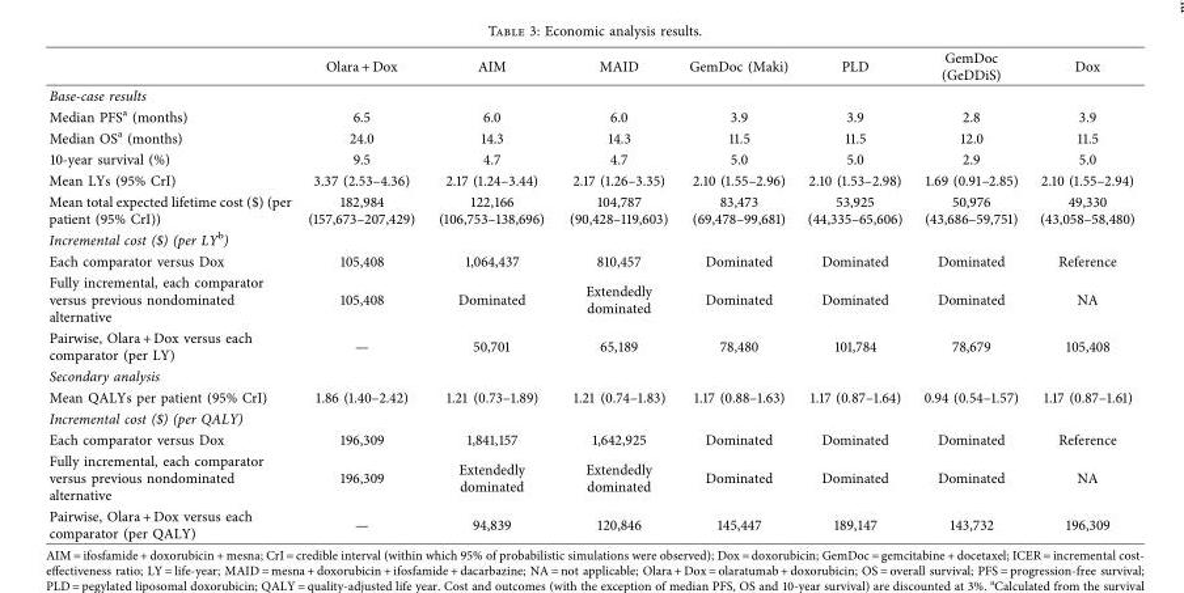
<table><thead><tr><td></td><td>Olara + Dox</td><td>AIM</td><td>MAID</td><td>GemDoc (Maki)</td><td>PLD</td><td>GemDoc (GeDDiS)</td><td>Dox</td></tr></thead><tbody><tr><td colspan="8">Base-case results</td></tr><tr><td>Median PFS<sup>a</sup> (months)</td><td>6.5</td><td>6.0</td><td>6.0</td><td>3.9</td><td>3.9</td><td>2.8</td><td>3.9</td></tr><tr><td>Median OS<sup>a</sup> (months)</td><td>24.0</td><td>14.3</td><td>14.3</td><td>11.5</td><td>11.5</td><td>12.0</td><td>11.5</td></tr><tr><td>10-year survival (%)</td><td>9.5</td><td>4.7</td><td>4.7</td><td>5.0</td><td>5.0</td><td>2.9</td><td>5.0</td></tr><tr><td>Mean LYs (95% CrI)</td><td>3.37 (2.53–4.36)</td><td>2.17 (1.24–3.44)</td><td>2.17 (1.26–3.35)</td><td>2.10 (1.55–2.96)</td><td>2.10 (1.53–2.98)</td><td>1.69 (0.91–2.85)</td><td>2.10 (1.55–2.94)</td></tr><tr><td>Mean total expected lifetime cost ($) (per patient (95% CrI))</td><td>182,984 (157,673–207,429)</td><td>122,166 (106,753–138,696)</td><td>104,787 (90,428–119,603)</td><td>83,473 (69,478–99,681)</td><td>53,925 (44,335–65,606)</td><td>50,976 (43,686–59,751)</td><td>49,330 (43,058–58,480)</td></tr><tr><td colspan="8">Incremental cost ($) (per LY<sup>b</sup>)</td></tr><tr><td>Each comparator versus Dox</td><td>105,408</td><td>1,064,437</td><td>810,457</td><td>Dominated</td><td>Dominated</td><td>Dominated</td><td>Reference</td></tr><tr><td>Fully incremental, each comparator versus previous nondominated alternative</td><td>105,408</td><td>Dominated</td><td>Extendedly dominated</td><td>Dominated</td><td>Dominated</td><td>Dominated</td><td>NA</td></tr><tr><td>Pairwise, Olara + Dox versus each comparator (per LY)</td><td>—</td><td>50,701</td><td>65,189</td><td>78,480</td><td>101,784</td><td>78,679</td><td>105,408</td></tr><tr><td colspan="8">Secondary analysis</td></tr><tr><td>Mean QALYs per patient (95% CrI)</td><td>1.86 (1.40–2.42)</td><td>1.21 (0.73–1.89)</td><td>1.21 (0.74–1.83)</td><td>1.17 (0.88–1.63)</td><td>1.17 (0.87–1.64)</td><td>0.94 (0.54–1.57)</td><td>1.17 (0.87–1.61)</td></tr><tr><td colspan="8">Incremental cost ($) (per QALY)</td></tr><tr><td>Each comparator versus Dox</td><td>196,309</td><td>1,841,157</td><td>1,642,925</td><td>Dominated</td><td>Dominated</td><td>Dominated</td><td>Reference</td></tr><tr><td>Fully incremental, each comparator versus previous nondominated alternative</td><td>196,309</td><td>Extendedly dominated</td><td>Extendedly dominated</td><td>Dominated</td><td>Dominated</td><td>Dominated</td><td>NA</td></tr><tr><td>Pairwise, Olara + Dox versus each comparator (per QALY)</td><td>—</td><td>94,839</td><td>120,846</td><td>145,447</td><td>189,147</td><td>143,732</td><td>196,309</td></tr></tbody></table>